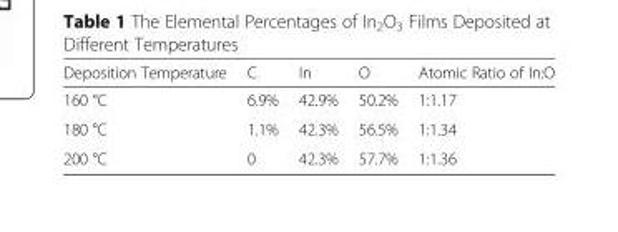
<table><thead><tr><td>Deposition Temperature</td><td>C</td><td>In</td><td>O</td><td>Atomic Ratio of In:O</td></tr></thead><tbody><tr><td>160 °C</td><td>6.9%</td><td>42.9%</td><td>50.2%</td><td>1:1.17</td></tr><tr><td>180 °C</td><td>1.1%</td><td>42.3%</td><td>56.5%</td><td>1:1.34</td></tr><tr><td>200 °C</td><td>0</td><td>42.3%</td><td>57.7%</td><td>1:1.36</td></tr></tbody></table>